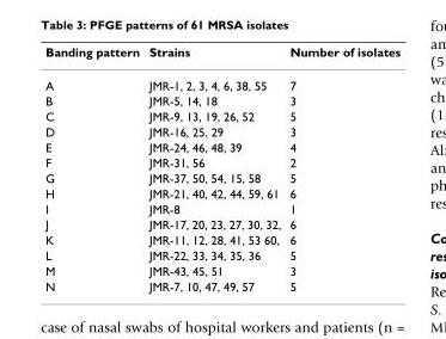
<table><thead><tr><td>Banding pattern</td><td>Strains</td><td>Number of isolates</td></tr></thead><tbody><tr><td>A</td><td>JMR-1, 2, 3, 4, 6, 38, 55</td><td>7</td></tr><tr><td>B</td><td>JMR-5, 14, 18</td><td>3</td></tr><tr><td>C</td><td>JMR-9, 13, 19, 26, 52</td><td>5</td></tr><tr><td>D</td><td>JMR-16, 25, 29</td><td>3</td></tr><tr><td>E</td><td>JMR-24, 46, 48, 39</td><td>4</td></tr><tr><td>F</td><td>JMR-31, 56</td><td>2</td></tr><tr><td>G</td><td>JMR-37, 50, 54, 15, 58</td><td>5</td></tr><tr><td>H</td><td>JMR-21, 40, 42, 44, 59, 61</td><td>6</td></tr><tr><td>I</td><td>JMR-8</td><td>1</td></tr><tr><td>J</td><td>JMR-17, 20, 23, 27, 30, 32,</td><td>6</td></tr><tr><td>K</td><td>JMR-11, 12, 28, 41, 53 60,</td><td>6</td></tr><tr><td>L</td><td>JMR-22, 33, 34, 35, 36</td><td>5</td></tr><tr><td>M</td><td>JMR-43, 45, 51</td><td>3</td></tr><tr><td>N</td><td>JMR-7, 10, 47, 49, 57</td><td>5</td></tr></tbody></table>